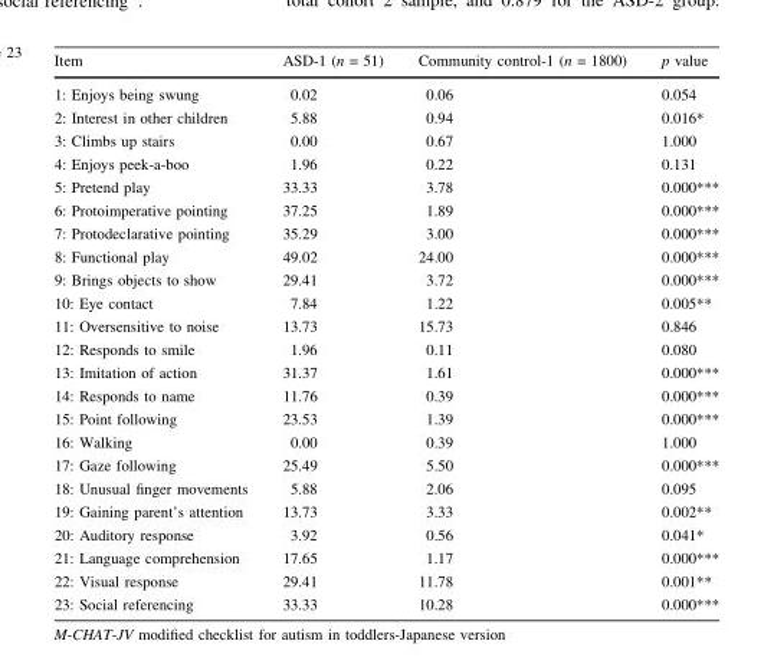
<table><thead><tr><td>Item</td><td>ASD-1 (n = 51)</td><td>Community control-1 (n = 1800)</td><td>p value</td></tr></thead><tbody><tr><td>1: Enjoys being swung</td><td>0.02</td><td>0.06</td><td>0.054</td></tr><tr><td>2: Interest in other children</td><td>5.88</td><td>0.94</td><td>0.016*</td></tr><tr><td>3: Climbs up stairs</td><td>0.00</td><td>0.67</td><td>1.000</td></tr><tr><td>4: Enjoys peek-a-boo</td><td>1.96</td><td>0.22</td><td>0.131</td></tr><tr><td>5: Pretend play</td><td>33.33</td><td>3.78</td><td>0.000***</td></tr><tr><td>6: Protoimperative pointing</td><td>37.25</td><td>1.89</td><td>0.000***</td></tr><tr><td>7: Protodeclarative pointing</td><td>35.29</td><td>3.00</td><td>0.000***</td></tr><tr><td>8: Functional play</td><td>49.02</td><td>24.00</td><td>0.000***</td></tr><tr><td>9: Brings objects to show</td><td>29.41</td><td>3.72</td><td>0.000***</td></tr><tr><td>10: Eye contact</td><td>7.84</td><td>1.22</td><td>0.005**</td></tr><tr><td>11: Oversensitive to noise</td><td>13.73</td><td>15.73</td><td>0.846</td></tr><tr><td>12: Responds to smile</td><td>1.96</td><td>0.11</td><td>0.080</td></tr><tr><td>13: Imitation of action</td><td>31.37</td><td>1.61</td><td>0.000***</td></tr><tr><td>14: Responds to name</td><td>11.76</td><td>0.39</td><td>0.000***</td></tr><tr><td>15: Point following</td><td>23.53</td><td>1.39</td><td>0.000***</td></tr><tr><td>16: Walking</td><td>0.00</td><td>0.39</td><td>1.000</td></tr><tr><td>17: Gaze following</td><td>25.49</td><td>5.50</td><td>0.000***</td></tr><tr><td>18: Unusual finger movements</td><td>5.88</td><td>2.06</td><td>0.095</td></tr><tr><td>19: Gaining parent’s attention</td><td>13.73</td><td>3.33</td><td>0.002**</td></tr><tr><td>20: Auditory response</td><td>3.92</td><td>0.56</td><td>0.041*</td></tr><tr><td>21: Language comprehension</td><td>17.65</td><td>1.17</td><td>0.000***</td></tr><tr><td>22: Visual response</td><td>29.41</td><td>11.78</td><td>0.001**</td></tr><tr><td>23: Social referencing</td><td>33.33</td><td>10.28</td><td>0.000***</td></tr></tbody></table>